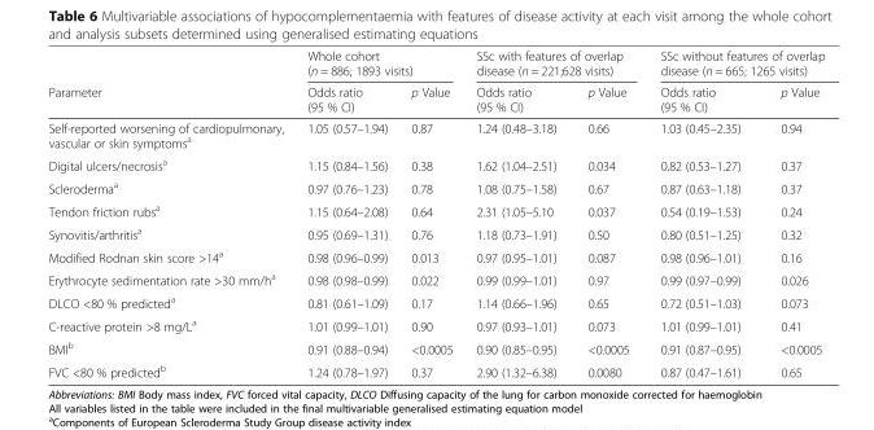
<table><thead><tr><td rowspan="2">Parameter</td><td colspan="2">Whole cohort (n = 886; 1893 visits)</td><td colspan="2">SSc with features of overlap disease (n = 221;628 visits)</td><td colspan="2">SSc without features of overlap disease (n = 665; 1265 visits)</td></tr><tr><td>Odds ratio (95 % CI)</td><td>p Value</td><td>Odds ratio (95 % CI)</td><td>p Value</td><td>Odds ratio (95 % CI)</td><td>p Value</td></tr></thead><tbody><tr><td>Self-reported worsening of cardiopulmonary, vascular or skin symptoms<sup>a</sup></td><td>1.05 (0.57–1.94)</td><td>0.87</td><td>1.24 (0.48–3.18)</td><td>0.66</td><td>1.03 (0.45–2.35)</td><td>0.94</td></tr><tr><td>Digital ulcers/necrosis<sup>a</sup></td><td>1.15 (0.84–1.56)</td><td>0.38</td><td>1.62 (1.04–2.51)</td><td>0.034</td><td>0.82 (0.53–1.27)</td><td>0.37</td></tr><tr><td>Scleroderma<sup>a</sup></td><td>0.97 (0.76–1.23)</td><td>0.78</td><td>1.08 (0.75–1.58)</td><td>0.67</td><td>0.87 (0.63–1.18)</td><td>0.37</td></tr><tr><td>Tendon friction rubs<sup>a</sup></td><td>1.15 (0.64–2.08)</td><td>0.64</td><td>2.31 (1.05–5.10</td><td>0.037</td><td>0.54 (0.19–1.53)</td><td>0.24</td></tr><tr><td>Synovitis/arthritis<sup>a</sup></td><td>0.95 (0.69–1.31)</td><td>0.76</td><td>1.18 (0.73–1.91)</td><td>0.50</td><td>0.80 (0.51–1.25)</td><td>0.32</td></tr><tr><td>Modified Rodnan skin score &gt;14<sup>a</sup></td><td>0.98 (0.96–0.99)</td><td>0.013</td><td>0.97 (0.95–1.01)</td><td>0.087</td><td>0.98 (0.96–1.01)</td><td>0.16</td></tr><tr><td>Erythrocyte sedimentation rate &gt;30 mm/h<sup>a</sup></td><td>0.98 (0.98–0.99)</td><td>0.022</td><td>0.99 (0.99–1.01)</td><td>0.97</td><td>0.99 (0.97–0.99)</td><td>0.026</td></tr><tr><td>DLCO &lt;80 % predicted<sup>a</sup></td><td>0.81 (0.61–1.09)</td><td>0.17</td><td>1.14 (0.66–1.96)</td><td>0.65</td><td>0.72 (0.51–1.03)</td><td>0.073</td></tr><tr><td>C-reactive protein &gt;8 mg/L<sup>a</sup></td><td>1.01 (0.99–1.01)</td><td>0.90</td><td>0.97 (0.93–1.01)</td><td>0.073</td><td>1.01 (0.99–1.01)</td><td>0.41</td></tr><tr><td>BMI<sup>b</sup></td><td>0.91 (0.88–0.94)</td><td>&lt;0.0005</td><td>0.90 (0.85–0.95)</td><td>&lt;0.0005</td><td>0.91 (0.87–0.95)</td><td>&lt;0.0005</td></tr><tr><td>FVC &lt;80 % predicted<sup>b</sup></td><td>1.24 (0.78–1.97)</td><td>0.37</td><td>2.90 (1.32–6.38)</td><td>0.0080</td><td>0.87 (0.47–1.61)</td><td>0.65</td></tr></tbody></table>